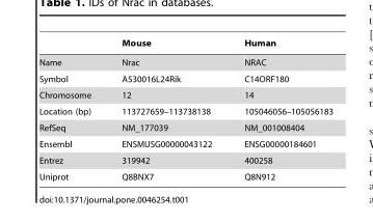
<table><thead><tr><td></td><td>Mouse</td><td>Human</td></tr></thead><tbody><tr><td>Name</td><td>Nrac</td><td>NRAC</td></tr><tr><td>Symbol</td><td>A530016L24Rik</td><td>C14ORF180</td></tr><tr><td>Chromosome</td><td>12</td><td>14</td></tr><tr><td>Location (bp)</td><td>113727659–113738138</td><td>105046056–105056183</td></tr><tr><td>RefSeq</td><td>NM_177039</td><td>NM_001008404</td></tr><tr><td>Ensembl</td><td>ENSMUSG00000043122</td><td>ENSG00000184601</td></tr><tr><td>Entrez</td><td>319942</td><td>400258</td></tr><tr><td>Uniprot</td><td>Q8BNX7</td><td>Q8N912</td></tr></tbody></table>